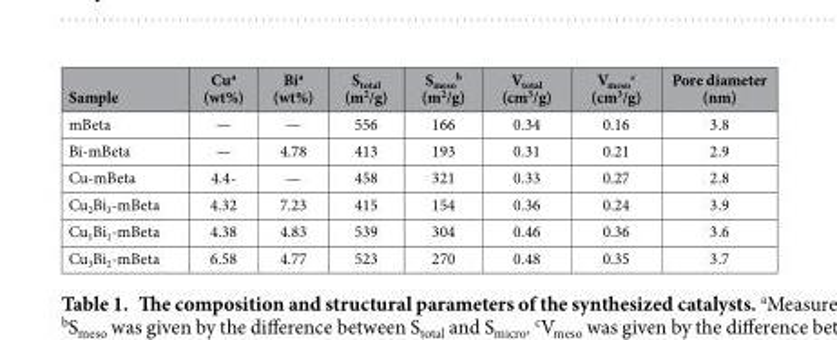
<table><thead><tr><td>Sample</td><td>Cu<sup>a</sup> (wt%)</td><td>Bi<sup>a</sup> (wt%)</td><td>S<sub>total</sub> (m<sup>2</sup>/g)</td><td>S<sub>meso</sub> <sup>b</sup> (m<sup>2</sup>/g)</td><td>V<sub>total</sub> (cm<sup>3</sup>/g)</td><td>V<sub>meso</sub> <sup>c</sup> (cm<sup>3</sup>/g)</td><td>Pore diameter (nm)</td></tr></thead><tbody><tr><td>mBeta</td><td>—</td><td>—</td><td>556</td><td>166</td><td>0.34</td><td>0.16</td><td>3.8</td></tr><tr><td>Bi-mBeta</td><td>—</td><td>4.78</td><td>413</td><td>193</td><td>0.31</td><td>0.21</td><td>2.9</td></tr><tr><td>Cu-mBeta</td><td>4.4-</td><td>—</td><td>458</td><td>321</td><td>0.33</td><td>0.27</td><td>2.8</td></tr><tr><td>Cu<sub>2</sub>Bi<sub>3</sub>-mBeta</td><td>4.32</td><td>7.23</td><td>415</td><td>154</td><td>0.36</td><td>0.24</td><td>3.9</td></tr><tr><td>Cu<sub>1</sub>Bi<sub>1</sub>-mBeta</td><td>4.38</td><td>4.83</td><td>539</td><td>304</td><td>0.46</td><td>0.36</td><td>3.6</td></tr><tr><td>Cu<sub>3</sub>Bi<sub>2</sub>-mBeta</td><td>6.58</td><td>4.77</td><td>523</td><td>270</td><td>0.48</td><td>0.35</td><td>3.7</td></tr></tbody></table>